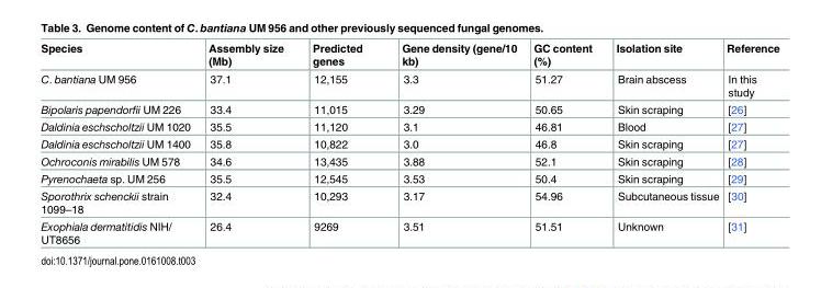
<table><thead><tr><td>Species</td><td>Assembly size (Mb)</td><td>Predicted genes</td><td>Gene density (gene/10 kb)</td><td>GC content (%)</td><td>Isolation site</td><td>Reference</td></tr></thead><tbody><tr><td>C. bantiana UM 956</td><td>37.1</td><td>12,155</td><td>3.3</td><td>51.27</td><td>Brain abscess</td><td>In this study</td></tr><tr><td>Bipolaris papendorfii UM 226</td><td>33.4</td><td>11,015</td><td>3.29</td><td>50.65</td><td>Skin scraping</td><td>[26]</td></tr><tr><td>Daldinia eschscholtzii UM 1020</td><td>35.5</td><td>11,120</td><td>3.1</td><td>46.81</td><td>Blood</td><td>[27]</td></tr><tr><td>Daldinia eschscholtzii UM 1400</td><td>35.8</td><td>10,822</td><td>3.0</td><td>46.8</td><td>Skin scraping</td><td>[27]</td></tr><tr><td>Ochroconis mirabilis UM 578</td><td>34.6</td><td>13,435</td><td>3.88</td><td>52.1</td><td>Skin scraping</td><td>[28]</td></tr><tr><td>Pyrenochaeta sp. UM 256</td><td>35.5</td><td>12,545</td><td>3.53</td><td>50.4</td><td>Skin scraping</td><td>[29]</td></tr><tr><td>Sporothrix schenckii strain 1099–18</td><td>32.4</td><td>10,293</td><td>3.17</td><td>54.96</td><td>Subcutaneous tissue</td><td>[30]</td></tr><tr><td>Exophiala dermatitidis NIH/ UT8656</td><td>26.4</td><td>9269</td><td>3.51</td><td>51.51</td><td>Unknown</td><td>[31]</td></tr></tbody></table>